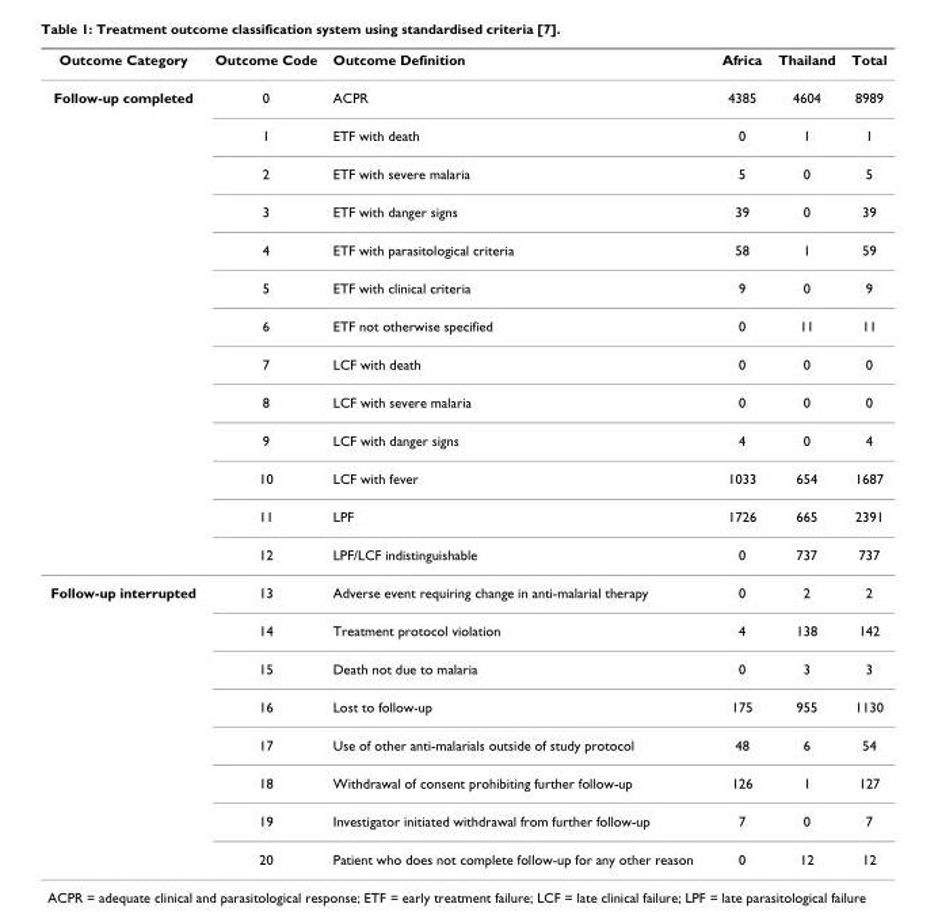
<table><thead><tr><td>Outcome Category</td><td>Outcome Code</td><td>Outcome Definition</td><td>Africa</td><td>Thailand</td><td>Total</td></tr></thead><tbody><tr><td rowspan="13">Follow-up completed</td><td>0</td><td>ACPR</td><td>4385</td><td>4604</td><td>8989</td></tr><tr><td>1</td><td>ETF with death</td><td>0</td><td>1</td><td>1</td></tr><tr><td>2</td><td>ETF with severe malaria</td><td>5</td><td>0</td><td>5</td></tr><tr><td>3</td><td>ETF with danger signs</td><td>39</td><td>0</td><td>39</td></tr><tr><td>4</td><td>ETF with parasitological criteria</td><td>58</td><td>1</td><td>59</td></tr><tr><td>5</td><td>ETF with clinical criteria</td><td>9</td><td>0</td><td>9</td></tr><tr><td>6</td><td>ETF not otherwise specified</td><td>0</td><td>11</td><td>11</td></tr><tr><td>7</td><td>LCF with death</td><td>0</td><td>0</td><td>0</td></tr><tr><td>8</td><td>LCF with severe malaria</td><td>0</td><td>0</td><td>0</td></tr><tr><td>9</td><td>LCF with danger signs</td><td>4</td><td>0</td><td>4</td></tr><tr><td>10</td><td>LCF with fever</td><td>1033</td><td>654</td><td>1687</td></tr><tr><td>11</td><td>LPF</td><td>1726</td><td>665</td><td>2391</td></tr><tr><td>12</td><td>LPF/LCF indistinguishable</td><td>0</td><td>737</td><td>737</td></tr><tr><td rowspan="8">Follow-up interrupted</td><td>13</td><td>Adverse event requiring change in anti-malarial therapy</td><td>0</td><td>2</td><td>2</td></tr><tr><td>14</td><td>Treatment protocol violation</td><td>4</td><td>138</td><td>142</td></tr><tr><td>15</td><td>Death not due to malaria</td><td>0</td><td>3</td><td>3</td></tr><tr><td>16</td><td>Lost to follow-up</td><td>175</td><td>955</td><td>1130</td></tr><tr><td>17</td><td>Use of other anti-malarials outside of study protocol</td><td>48</td><td>6</td><td>54</td></tr><tr><td>18</td><td>Withdrawal of consent prohibiting further follow-up</td><td>126</td><td>1</td><td>127</td></tr><tr><td>19</td><td>Investigator initiated withdrawal from further follow-up</td><td>7</td><td>0</td><td>7</td></tr><tr><td>20</td><td>Patient who does not complete follow-up for any other reason</td><td>0</td><td>12</td><td>12</td></tr></tbody></table>